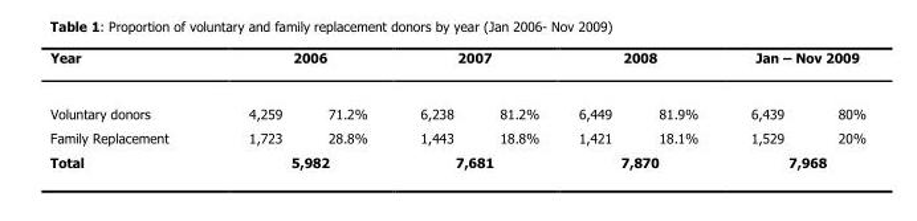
<table><thead><tr><td rowspan="2">Year Voluntary donors</td><td colspan="2">2006</td><td colspan="2">2007</td><td colspan="2">2008</td><td colspan="2">Jan – Nov 2009</td></tr><tr><td>4,259</td><td>71.2%</td><td>6,238</td><td>81.2%</td><td>6,449</td><td>81.9%</td><td>6,439</td><td>80%</td></tr></thead><tbody><tr><td>Family Replacement</td><td>1,723</td><td>28.8%</td><td>1,443</td><td>18.8%</td><td>1,421</td><td>18.1%</td><td>1,529</td><td>20%</td></tr><tr><td>Total</td><td colspan="2">5,982</td><td colspan="2">7,681</td><td colspan="2">7,870</td><td colspan="2">7,968</td></tr></tbody></table>